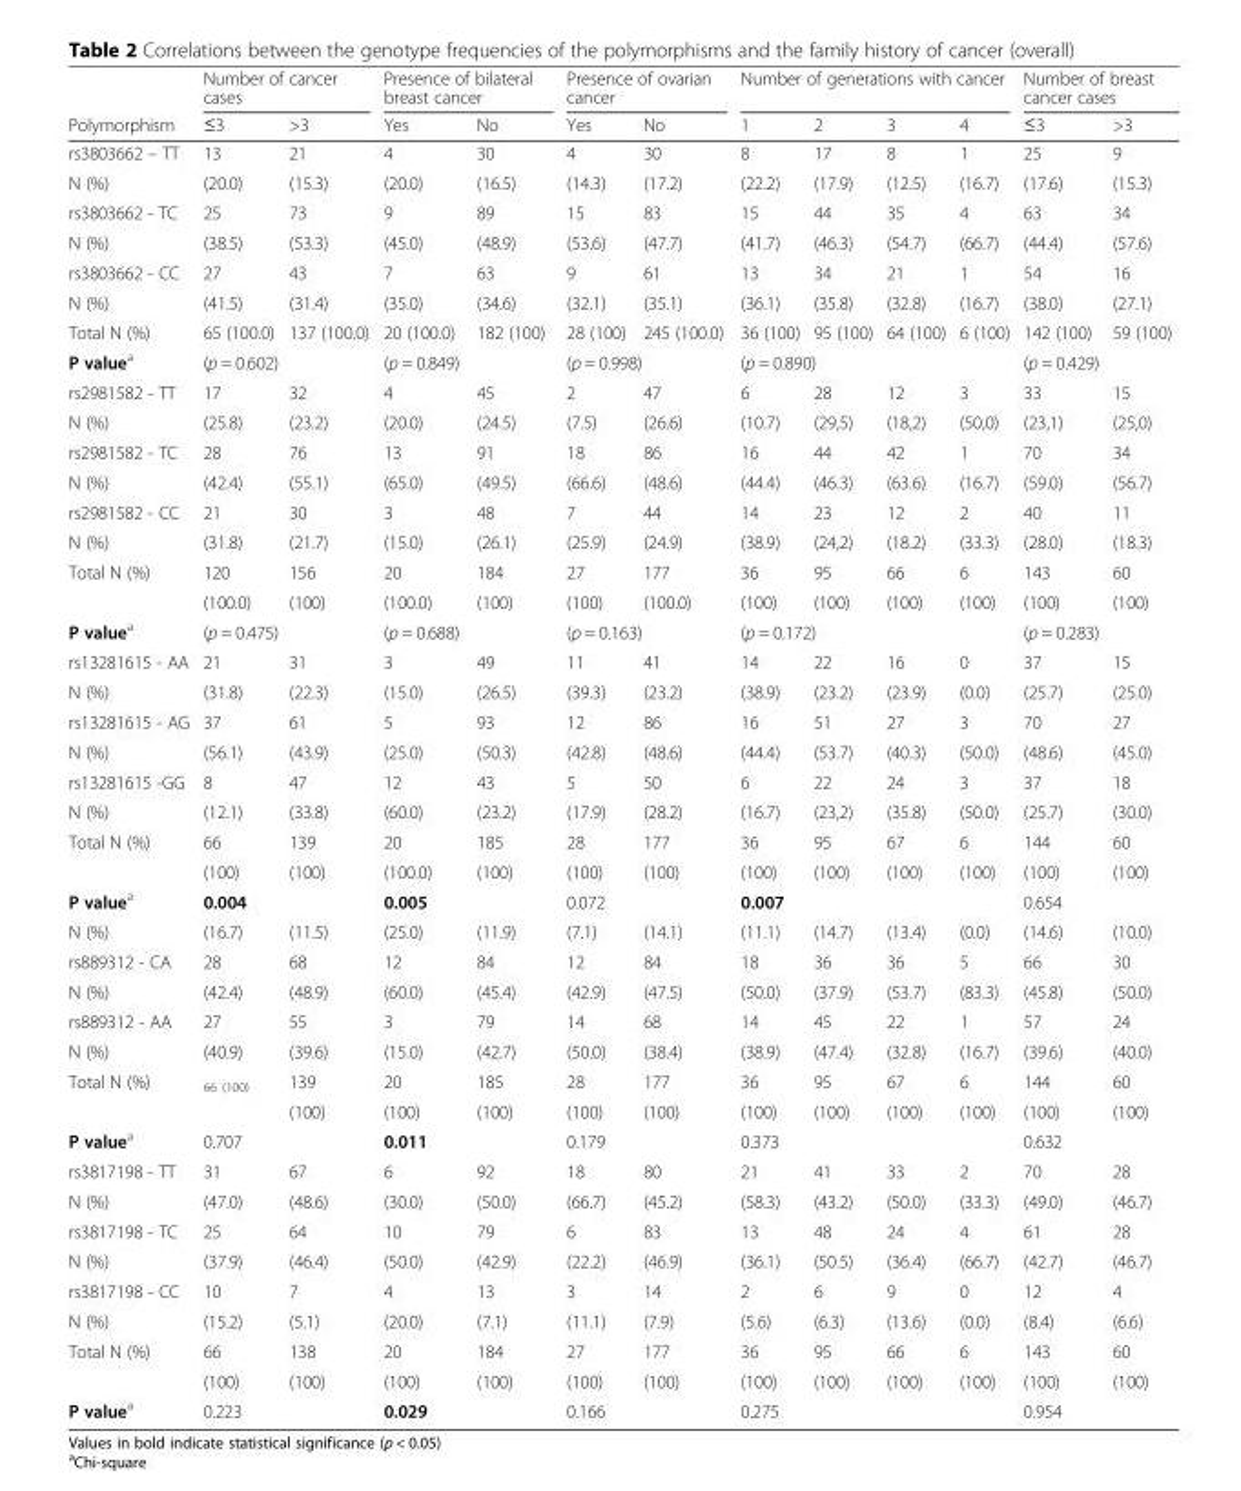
<table><thead><tr><td rowspan="2">Polymorphism</td><td colspan="2">Number of cancer cases</td><td colspan="2">Presence of bilateral breast cancer</td><td colspan="2">Presence of ovarian cancer</td><td colspan="4">Number of generations with cancer</td><td colspan="2">Number of breast cancer cases</td></tr><tr><td>≤3</td><td>&gt;3</td><td>Yes</td><td>No</td><td>Yes</td><td>No</td><td>1</td><td>2</td><td>3</td><td>4</td><td>≤3</td><td>&gt;3</td></tr></thead><tbody><tr><td>rs3803662 – TT</td><td>13</td><td>21</td><td>4</td><td>30</td><td>4</td><td>30</td><td>8</td><td>17</td><td>8</td><td>1</td><td>25</td><td>9</td></tr><tr><td>N (%)</td><td>(20.0)</td><td>(15.3)</td><td>(20.0)</td><td>(16.5)</td><td>(14.3)</td><td>(17.2)</td><td>(22.2)</td><td>(17.9)</td><td>(12.5)</td><td>(16.7)</td><td>(17.6)</td><td>(15.3)</td></tr><tr><td>rs3803662 - TC</td><td>25</td><td>73</td><td>9</td><td>89</td><td>15</td><td>83</td><td>15</td><td>44</td><td>35</td><td>4</td><td>63</td><td>34</td></tr><tr><td>N (%)</td><td>(38.5)</td><td>(53.3)</td><td>(45.0)</td><td>(48.9)</td><td>(53.6)</td><td>(47.7)</td><td>(41.7)</td><td>(46.3)</td><td>(54.7)</td><td>(66.7)</td><td>(44.4)</td><td>(57.6)</td></tr><tr><td>rs3803662 - CC</td><td>27</td><td>43</td><td>7</td><td>63</td><td>9</td><td>61</td><td>13</td><td>34</td><td>21</td><td>1</td><td>54</td><td>16</td></tr><tr><td>N (%)</td><td>(41.5)</td><td>(31.4)</td><td>(35.0)</td><td>(34.6)</td><td>(32.1)</td><td>(35.1)</td><td>(36.1)</td><td>(35.8)</td><td>(32.8)</td><td>(16.7)</td><td>(38.0)</td><td>(27.1)</td></tr><tr><td>Total N (%)</td><td>65 (100.0)</td><td>137 (100.0)</td><td>20 (100.0)</td><td>182 (100)</td><td>28 (100)</td><td>245 (100.0)</td><td>36 (100)</td><td>95 (100)</td><td>64 (100)</td><td>6 (100)</td><td>142 (100)</td><td>59 (100)</td></tr><tr><td>P value<sup>a</sup></td><td colspan="2">(p = 0.602)</td><td colspan="2">(p = 0.849)</td><td colspan="2">(p = 0.998)</td><td colspan="4">(p = 0.890)</td><td colspan="2">(p = 0.429)</td></tr><tr><td>rs2981582 - TT</td><td>17</td><td>32</td><td>4</td><td>45</td><td>2</td><td>47</td><td>6</td><td>28</td><td>12</td><td>3</td><td>33</td><td>15</td></tr><tr><td>N (%)</td><td>(25.8)</td><td>(23.2)</td><td>(20.0)</td><td>(24.5)</td><td>(7.5)</td><td>(26.6)</td><td>(10.7)</td><td>(29,5)</td><td>(18,2)</td><td>(50,0)</td><td>(23,1)</td><td>(25,0)</td></tr><tr><td>rs2981582 - TC</td><td>28</td><td>76</td><td>13</td><td>91</td><td>18</td><td>86</td><td>16</td><td>44</td><td>42</td><td>1</td><td>70</td><td>34</td></tr><tr><td>N (%)</td><td>(42.4)</td><td>(55.1)</td><td>(65.0)</td><td>(49.5)</td><td>(66.6)</td><td>(48.6)</td><td>(44.4)</td><td>(46.3)</td><td>(63.6)</td><td>(16.7)</td><td>(59.0)</td><td>(56.7)</td></tr><tr><td>rs2981582 - CC</td><td>21</td><td>30</td><td>3</td><td>48</td><td>7</td><td>44</td><td>14</td><td>23</td><td>12</td><td>2</td><td>40</td><td>11</td></tr><tr><td>N (%)</td><td>(31.8)</td><td>(21.7)</td><td>(15.0)</td><td>(26.1)</td><td>(25.9)</td><td>(24.9)</td><td>(38.9)</td><td>(24,2)</td><td>(18.2)</td><td>(33.3)</td><td>(28.0)</td><td>(18.3)</td></tr><tr><td rowspan="2">Total N (%)</td><td>120</td><td>156</td><td>20</td><td>184</td><td>27</td><td>177</td><td>36</td><td>95</td><td>66</td><td>6</td><td>143</td><td>60</td></tr><tr><td>(100.0)</td><td>(100)</td><td>(100.0)</td><td>(100)</td><td>(100)</td><td>(100.0)</td><td>(100)</td><td>(100)</td><td>(100)</td><td>(100)</td><td>(100)</td><td>(100)</td></tr><tr><td>P value<sup>a</sup></td><td colspan="2">(p = 0.475)</td><td colspan="2">(p = 0.688)</td><td colspan="2">(p = 0.163)</td><td colspan="4">(p = 0.172)</td><td colspan="2">(p = 0.283)</td></tr><tr><td>rs13281615 - AA</td><td>21</td><td>31</td><td>3</td><td>49</td><td>11</td><td>41</td><td>14</td><td>22</td><td>16</td><td>0</td><td>37</td><td>15</td></tr><tr><td>N (%)</td><td>(31.8)</td><td>(22.3)</td><td>(15.0)</td><td>(26.5)</td><td>(39.3)</td><td>(23.2)</td><td>(38.9)</td><td>(23.2)</td><td>(23.9)</td><td>(0.0)</td><td>(25.7)</td><td>(25.0)</td></tr><tr><td>rs13281615 - AG</td><td>37</td><td>61</td><td>5</td><td>93</td><td>12</td><td>86</td><td>16</td><td>51</td><td>27</td><td>3</td><td>70</td><td>27</td></tr><tr><td>N (%)</td><td>(56.1)</td><td>(43.9)</td><td>(25.0)</td><td>(50.3)</td><td>(42.8)</td><td>(48.6)</td><td>(44.4)</td><td>(53.7)</td><td>(40.3)</td><td>(50.0)</td><td>(48.6)</td><td>(45.0)</td></tr><tr><td>rs13281615 -GG</td><td>8</td><td>47</td><td>12</td><td>43</td><td>5</td><td>50</td><td>6</td><td>22</td><td>24</td><td>3</td><td>37</td><td>18</td></tr><tr><td>N (%)</td><td>(12.1)</td><td>(33.8)</td><td>(60.0)</td><td>(23.2)</td><td>(17.9)</td><td>(28.2)</td><td>(16.7)</td><td>(23,2)</td><td>(35.8)</td><td>(50.0)</td><td>(25.7)</td><td>(30.0)</td></tr><tr><td rowspan="2">Total N (%)</td><td>66</td><td>139</td><td>20</td><td>185</td><td>28</td><td>177</td><td>36</td><td>95</td><td>67</td><td>6</td><td>144</td><td>60</td></tr><tr><td>(100)</td><td>(100)</td><td>(100.0)</td><td>(100)</td><td>(100)</td><td>(100)</td><td>(100)</td><td>(100)</td><td>(100)</td><td>(100)</td><td>(100)</td><td>(100)</td></tr><tr><td>P value<sup>a</sup></td><td colspan="2">0.004</td><td colspan="2">0.005</td><td colspan="2">0.072</td><td colspan="4">0.007</td><td colspan="2">0.654</td></tr><tr><td>N (%)</td><td>(16.7)</td><td>(11.5)</td><td>(25.0)</td><td>(11.9)</td><td>(7.1)</td><td>(14.1)</td><td>(11.1)</td><td>(14.7)</td><td>(13.4)</td><td>(0.0)</td><td>(14.6)</td><td>(10.0)</td></tr><tr><td>rs889312 - CA</td><td>28</td><td>68</td><td>12</td><td>84</td><td>12</td><td>84</td><td>18</td><td>36</td><td>36</td><td>5</td><td>66</td><td>30</td></tr><tr><td>N (%)</td><td>(42.4)</td><td>(48.9)</td><td>(60.0)</td><td>(45.4)</td><td>(42.9)</td><td>(47.5)</td><td>(50.0)</td><td>(37.9)</td><td>(53.7)</td><td>(83.3)</td><td>(45.8)</td><td>(50.0)</td></tr><tr><td>rs889312 - AA</td><td>27</td><td>55</td><td>3</td><td>79</td><td>14</td><td>68</td><td>14</td><td>45</td><td>22</td><td>1</td><td>57</td><td>24</td></tr><tr><td>N (%)</td><td>(40.9)</td><td>(39.6)</td><td>(15.0)</td><td>(42.7)</td><td>(50.0)</td><td>(38.4)</td><td>(38.9)</td><td>(47.4)</td><td>(32.8)</td><td>(16.7)</td><td>(39.6)</td><td>(40.0)</td></tr><tr><td rowspan="2">Total N (%)</td><td><sub>66 (100)</sub></td><td>139</td><td>20</td><td>185</td><td>28</td><td>177</td><td>36</td><td>95</td><td>67</td><td>6</td><td>144</td><td>60</td></tr><tr><td></td><td>(100)</td><td>(100)</td><td>(100)</td><td>(100)</td><td>(100)</td><td>(100)</td><td>(100)</td><td>(100)</td><td>(100)</td><td>(100)</td><td>(100)</td></tr><tr><td>P value<sup>a</sup></td><td colspan="2">0.707</td><td colspan="2">0.011</td><td colspan="2">0.179</td><td colspan="4">0.373</td><td colspan="2">0.632</td></tr><tr><td>rs3817198 - TT</td><td>31</td><td>67</td><td>6</td><td>92</td><td>18</td><td>80</td><td>21</td><td>41</td><td>33</td><td>2</td><td>70</td><td>28</td></tr><tr><td>N (%)</td><td>(47.0)</td><td>(48.6)</td><td>(30.0)</td><td>(50.0)</td><td>(66.7)</td><td>(45.2)</td><td>(58.3)</td><td>(43.2)</td><td>(50.0)</td><td>(33.3)</td><td>(49.0)</td><td>(46.7)</td></tr><tr><td>rs3817198 - TC</td><td>25</td><td>64</td><td>10</td><td>79</td><td>6</td><td>83</td><td>13</td><td>48</td><td>24</td><td>4</td><td>61</td><td>28</td></tr><tr><td>N (%)</td><td>(37.9)</td><td>(46.4)</td><td>(50.0)</td><td>(42.9)</td><td>(22.2)</td><td>(46.9)</td><td>(36.1)</td><td>(50.5)</td><td>(36.4)</td><td>(66.7)</td><td>(42.7)</td><td>(46.7)</td></tr><tr><td>rs3817198 - CC</td><td>10</td><td>7</td><td>4</td><td>13</td><td>3</td><td>14</td><td>2</td><td>6</td><td>9</td><td>0</td><td>12</td><td>4</td></tr><tr><td>N (%)</td><td>(15.2)</td><td>(5.1)</td><td>(20.0)</td><td>(7.1)</td><td>(11.1)</td><td>(7.9)</td><td>(5.6)</td><td>(6.3)</td><td>(13.6)</td><td>(0.0)</td><td>(8.4)</td><td>(6.6)</td></tr><tr><td rowspan="2">Total N (%)</td><td>66</td><td>138</td><td>20</td><td>184</td><td>27</td><td>177</td><td>36</td><td>95</td><td>66</td><td>6</td><td>143</td><td>60</td></tr><tr><td>(100)</td><td>(100)</td><td>(100)</td><td>(100)</td><td>(100)</td><td>(100)</td><td>(100)</td><td>(100)</td><td>(100)</td><td>(100)</td><td>(100)</td><td>(100)</td></tr><tr><td>P value<sup>a</sup></td><td colspan="2">0.223</td><td colspan="2">0.029</td><td colspan="2">0.166</td><td colspan="4">0.275</td><td colspan="2">0.954</td></tr></tbody></table>